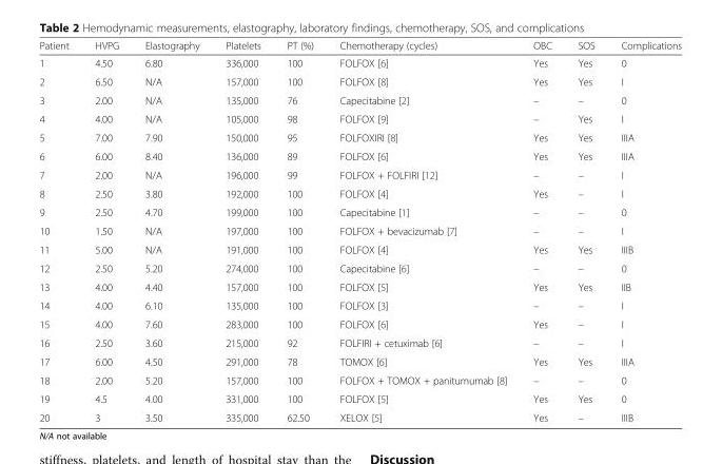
<table><thead><tr><td>Patient</td><td>HVPG</td><td>Elastography</td><td>Platelets</td><td>PT (%)</td><td>Chemotherapy (cycles)</td><td>OBC</td><td>SOS</td><td>Complications</td></tr></thead><tbody><tr><td>1</td><td>4.50</td><td>6.80</td><td>336,000</td><td>100</td><td>FOLFOX [6]</td><td>Yes</td><td>Yes</td><td>0</td></tr><tr><td>2</td><td>6.50</td><td>N/A</td><td>157,000</td><td>100</td><td>FOLFOX [8]</td><td>Yes</td><td>Yes</td><td>I</td></tr><tr><td>3</td><td>2.00</td><td>N/A</td><td>135,000</td><td>76</td><td>Capecitabine [2]</td><td>–</td><td>–</td><td>0</td></tr><tr><td>4</td><td>4.00</td><td>N/A</td><td>105,000</td><td>98</td><td>FOLFOX [9]</td><td>–</td><td>Yes</td><td>I</td></tr><tr><td>5</td><td>7.00</td><td>7.90</td><td>150,000</td><td>95</td><td>FOLFOXIRI [8]</td><td>Yes</td><td>Yes</td><td>IIIA</td></tr><tr><td>6</td><td>6.00</td><td>8.40</td><td>136,000</td><td>89</td><td>FOLFOX [6]</td><td>Yes</td><td>Yes</td><td>IIIA</td></tr><tr><td>7</td><td>2.00</td><td>N/A</td><td>196,000</td><td>99</td><td>FOLFOX + FOLFIRI [12]</td><td>–</td><td>–</td><td>I</td></tr><tr><td>8</td><td>2.50</td><td>3.80</td><td>192,000</td><td>100</td><td>FOLFOX [4]</td><td>Yes</td><td>–</td><td>I</td></tr><tr><td>9</td><td>2.50</td><td>4.70</td><td>199,000</td><td>100</td><td>Capecitabine [1]</td><td>–</td><td>–</td><td>0</td></tr><tr><td>10</td><td>1.50</td><td>N/A</td><td>197,000</td><td>100</td><td>FOLFOX + bevacizumab [7]</td><td>–</td><td>–</td><td>I</td></tr><tr><td>11</td><td>5.00</td><td>N/A</td><td>191,000</td><td>100</td><td>FOLFOX [4]</td><td>Yes</td><td>Yes</td><td>IIIB</td></tr><tr><td>12</td><td>2.50</td><td>5.20</td><td>274,000</td><td>100</td><td>Capecitabine [6]</td><td>–</td><td>–</td><td>0</td></tr><tr><td>13</td><td>4.00</td><td>4.40</td><td>157,000</td><td>100</td><td>FOLFOX [5]</td><td>Yes</td><td>Yes</td><td>IIB</td></tr><tr><td>14</td><td>4.00</td><td>6.10</td><td>135,000</td><td>100</td><td>FOLFOX [3]</td><td>–</td><td>–</td><td>I</td></tr><tr><td>15</td><td>4.00</td><td>7.60</td><td>283,000</td><td>100</td><td>FOLFOX [6]</td><td>Yes</td><td>–</td><td>I</td></tr><tr><td>16</td><td>2.50</td><td>3.60</td><td>215,000</td><td>92</td><td>FOLFIRI + cetuximab [6]</td><td>–</td><td>–</td><td>I</td></tr><tr><td>17</td><td>6.00</td><td>4.50</td><td>291,000</td><td>78</td><td>TOMOX [6]</td><td>Yes</td><td>Yes</td><td>IIIA</td></tr><tr><td>18</td><td>2.00</td><td>5.20</td><td>157,000</td><td>100</td><td>FOLFOX + TOMOX + panitumumab [8]</td><td>–</td><td>–</td><td>0</td></tr><tr><td>19</td><td>4.5</td><td>4.00</td><td>331,000</td><td>100</td><td>FOLFOX [5]</td><td>Yes</td><td>Yes</td><td>0</td></tr><tr><td>20</td><td>3</td><td>3.50</td><td>335,000</td><td>62.50</td><td>XELOX [5]</td><td>Yes</td><td>–</td><td>IIIB</td></tr></tbody></table>